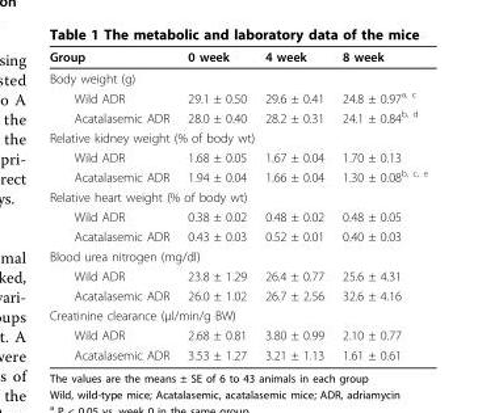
<table><thead><tr><td>Group</td><td>0 week</td><td>4 week</td><td>8 week</td></tr></thead><tbody><tr><td colspan="4">Body weight (g)</td></tr><tr><td>Wild ADR</td><td>29.1 ± 0.50</td><td>29.6 ± 0.41</td><td>24.8 ± 0.97<sup>a, c</sup></td></tr><tr><td>Acatalasemic ADR</td><td>28.0 ± 0.40</td><td>28.2 ± 0.31</td><td>24.1 ± 0.84<sup>b, d</sup></td></tr><tr><td colspan="4">Relative kidney weight (% of body wt)</td></tr><tr><td>Wild ADR</td><td>1.68 ± 0.05</td><td>1.67 ± 0.04</td><td>1.70 ± 0.13</td></tr><tr><td>Acatalasemic ADR</td><td>1.94 ± 0.04</td><td>1.66 ± 0.04</td><td>1.30 ± 0.08<sup>b, c, e</sup></td></tr><tr><td colspan="4">Relative heart weight (% of body wt)</td></tr><tr><td>Wild ADR</td><td>0.38 ± 0.02</td><td>0.48 ± 0.02</td><td>0.48 ± 0.05</td></tr><tr><td>Acatalasemic ADR</td><td>0.43 ± 0.03</td><td>0.52 ± 0.01</td><td>0.40 ± 0.03</td></tr><tr><td colspan="4">Blood urea nitrogen (mg/dl)</td></tr><tr><td>Wild ADR</td><td>23.8 ± 1.29</td><td>26.4 ± 0.77</td><td>25.6 ± 4.31</td></tr><tr><td>Acatalasemic ADR</td><td>26.0 ± 1.02</td><td>26.7 ± 2.56</td><td>32.6 ± 4.16</td></tr><tr><td colspan="4">Creatinine clearance (μl/min/g BW)</td></tr><tr><td>Wild ADR</td><td>2.68 ± 0.81</td><td>3.80 ± 0.99</td><td>2.10 ± 0.77</td></tr><tr><td>Acatalasemic ADR</td><td>3.53 ± 1.27</td><td>3.21 ± 1.13</td><td>1.61 ± 0.61</td></tr></tbody></table>